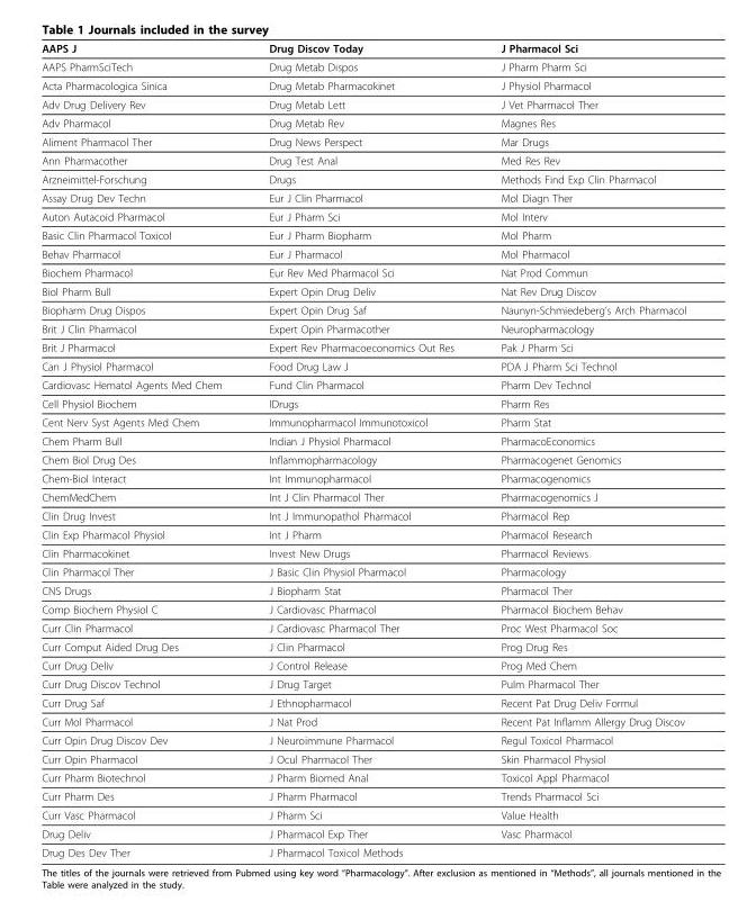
<table><thead><tr><td>AAPS J</td><td>Drug Discov Today</td><td>J Pharmacol Sci</td></tr></thead><tbody><tr><td>AAPS PharmSciTech</td><td>Drug Metab Dispos</td><td>J Pharm Pharm Sci</td></tr><tr><td>Acta Pharmacologica Sinica</td><td>Drug Metab Pharmacokinet</td><td>J Physiol Pharmacol</td></tr><tr><td>Adv Drug Delivery Rev</td><td>Drug Metab Lett</td><td>J Vet Pharmacol Ther</td></tr><tr><td>Adv Pharmacol</td><td>Drug Metab Rev</td><td>Magnes Res</td></tr><tr><td>Aliment Pharmacol Ther</td><td>Drug News Perspect</td><td>Mar Drugs</td></tr><tr><td>Ann Pharmacother</td><td>Drug Test Anal</td><td>Med Res Rev</td></tr><tr><td>Arzneimittel-Forschung</td><td>Drugs</td><td>Methods Find Exp Clin Pharmacol</td></tr><tr><td>Assay Drug Dev Techn</td><td>Eur J Clin Pharmacol</td><td>Mol Diagn Ther</td></tr><tr><td>Auton Autacoid Pharmacol</td><td>Eur J Pharm Sci</td><td>Mol Interv</td></tr><tr><td>Basic Clin Pharmacol Toxicol</td><td>Eur J Pharm Biopharm</td><td>Mol Pharm</td></tr><tr><td>Behav Pharmacol</td><td>Eur J Pharmacol</td><td>Mol Pharmacol</td></tr><tr><td>Biochem Pharmacol</td><td>Eur Rev Med Pharmacol Sci</td><td>Nat Prod Commun</td></tr><tr><td>Biol Pharm Bull</td><td>Expert Opin Drug Deliv</td><td>Nat Rev Drug Discov</td></tr><tr><td>Biopharm Drug Dispos</td><td>Expert Opin Drug Saf</td><td>Naunyn-Schmiedeberg’s Arch Pharmacol</td></tr><tr><td>Brit J Clin Pharmacol</td><td>Expert Opin Pharmacother</td><td>Neuropharmacology</td></tr><tr><td>Brit J Pharmacol</td><td>Expert Rev Pharmacoeconomics Out Res</td><td>Pak J Pharm Sci</td></tr><tr><td>Can J Physiol Pharmacol</td><td>Food Drug Law J</td><td>PDA J Pharm Sci Technol</td></tr><tr><td>Cardiovasc Hematol Agents Med Chem</td><td>Fund Clin Pharmacol</td><td>Pharm Dev Technol</td></tr><tr><td>Cell Physiol Biochem</td><td>IDrugs</td><td>Pharm Res</td></tr><tr><td>Cent Nerv Syst Agents Med Chem</td><td>Immunopharmacol Immunotoxicol</td><td>Pharm Stat</td></tr><tr><td>Chem Pharm Bull</td><td>Indian J Physiol Pharmacol</td><td>PharmacoEconomics</td></tr><tr><td>Chem Biol Drug Des</td><td>Inflammopharmacology</td><td>Pharmacogenet Genomics</td></tr><tr><td>Chem-Biol Interact</td><td>Int Immunopharmacol</td><td>Pharmacogenomics</td></tr><tr><td>ChemMedChem</td><td>Int J Clin Pharmacol Ther</td><td>Pharmacogenomics J</td></tr><tr><td>Clin Drug Invest</td><td>Int J Immunopathol Pharmacol</td><td>Pharmacol Rep</td></tr><tr><td>Clin Exp Pharmacol Physiol</td><td>Int J Pharm</td><td>Pharmacol Research</td></tr><tr><td>Clin Pharmacokinet</td><td>Invest New Drugs</td><td>Pharmacol Reviews</td></tr><tr><td>Clin Pharmacol Ther</td><td>J Basic Clin Physiol Pharmacol</td><td>Pharmacology</td></tr><tr><td>CNS Drugs</td><td>J Biopharm Stat</td><td>Pharmacol Ther</td></tr><tr><td>Comp Biochem Physiol C</td><td>J Cardiovasc Pharmacol</td><td>Pharmacol Biochem Behav</td></tr><tr><td>Curr Clin Pharmacol</td><td>J Cardiovasc Pharmacol Ther</td><td>Proc West Pharmacol Soc</td></tr><tr><td>Curr Comput Aided Drug Des</td><td>J Clin Pharmacol</td><td>Prog Drug Res</td></tr><tr><td>Curr Drug Deliv</td><td>J Control Release</td><td>Prog Med Chem</td></tr><tr><td>Curr Drug Discov Technol</td><td>J Drug Target</td><td>Pulm Pharmacol Ther</td></tr><tr><td>Curr Drug Saf</td><td>J Ethnopharmacol</td><td>Recent Pat Drug Deliv Formul</td></tr><tr><td>Curr Mol Pharmacol</td><td>J Nat Prod</td><td>Recent Pat Inflamm Allergy Drug Discov</td></tr><tr><td>Curr Opin Drug Discov Dev</td><td>J Neuroimmune Pharmacol</td><td>Regul Toxicol Pharmacol</td></tr><tr><td>Curr Opin Pharmacol</td><td>J Ocul Pharmacol Ther</td><td>Skin Pharmacol Physiol</td></tr><tr><td>Curr Pharm Biotechnol</td><td>J Pharm Biomed Anal</td><td>Toxicol Appl Pharmacol</td></tr><tr><td>Curr Pharm Des</td><td>J Pharm Pharmacol</td><td>Trends Pharmacol Sci</td></tr><tr><td>Curr Vasc Pharmacol</td><td>J Pharm Sci</td><td>Value Health</td></tr><tr><td>Drug Deliv</td><td>J Pharmacol Exp Ther</td><td>Vasc Pharmacol</td></tr><tr><td>Drug Des Dev Ther</td><td>J Pharmacol Toxicol Methods</td><td></td></tr></tbody></table>